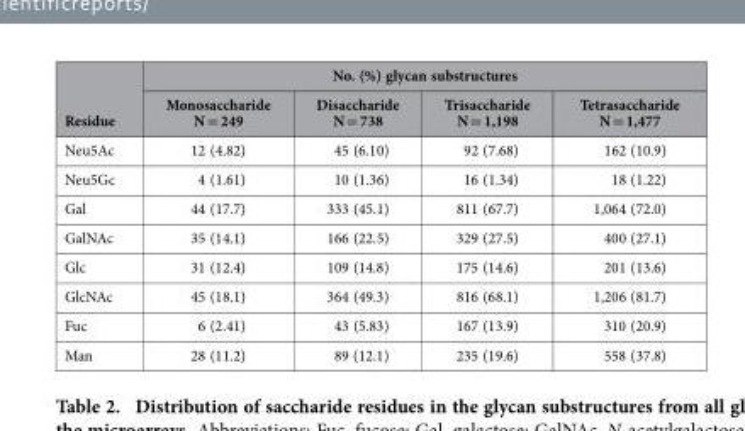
<table><thead><tr><td rowspan="2">Residue</td><td colspan="4">No. (%) glycan substructures</td></tr><tr><td>Monosaccharide N = 249</td><td>Disaccharide N = 738</td><td>Trisaccharide N = 1,198</td><td>Tetrasaccharide N = 1,477</td></tr></thead><tbody><tr><td>Neu5Ac</td><td>12 (4.82)</td><td>45 (6.10)</td><td>92 (7.68)</td><td>162 (10.9)</td></tr><tr><td>Neu5Gc</td><td>4 (1.61)</td><td>10 (1.36)</td><td>16 (1.34)</td><td>18 (1.22)</td></tr><tr><td>Gal</td><td>44 (17.7)</td><td>333 (45.1)</td><td>811 (67.7)</td><td>1,064 (72.0)</td></tr><tr><td>GalNAc</td><td>35 (14.1)</td><td>166 (22.5)</td><td>329 (27.5)</td><td>400 (27.1)</td></tr><tr><td>Glc</td><td>31 (12.4)</td><td>109 (14.8)</td><td>175 (14.6)</td><td>201 (13.6)</td></tr><tr><td>GlcNAc</td><td>45 (18.1)</td><td>364 (49.3)</td><td>816 (68.1)</td><td>1,206 (81.7)</td></tr><tr><td>Fuc</td><td>6 (2.41)</td><td>43 (5.83)</td><td>167 (13.9)</td><td>310 (20.9)</td></tr><tr><td>Man</td><td>28 (11.2)</td><td>89 (12.1)</td><td>235 (19.6)</td><td>558 (37.8)</td></tr></tbody></table>